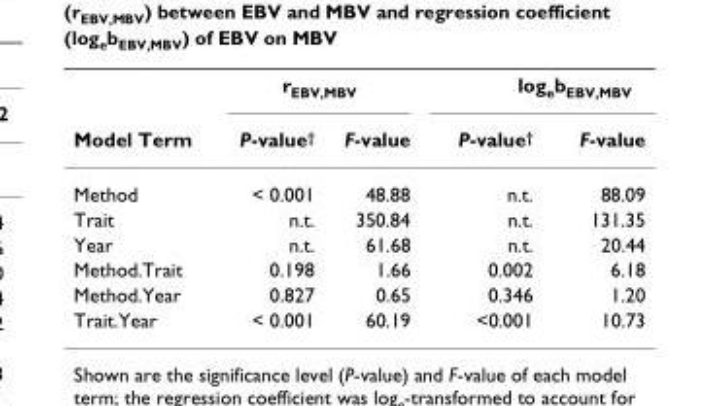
<table><thead><tr><td rowspan="2">Model Term</td><td colspan="2">r<sub>EBV,MBV</sub></td><td colspan="2">log<sub>e</sub>b<sub>EBV,MBV</sub></td></tr><tr><td>P-value<sup>†</sup></td><td>F-value</td><td>P-value<sup>†</sup></td><td>F-value</td></tr></thead><tbody><tr><td>Method</td><td>&lt; 0.001</td><td>48.88</td><td>n.t.</td><td>88.09</td></tr><tr><td>Trait</td><td>n.t.</td><td>350.84</td><td>n.t.</td><td>131.35</td></tr><tr><td>Year</td><td>n.t.</td><td>61.68</td><td>n.t.</td><td>20.44</td></tr><tr><td>Method.Trait</td><td>0.198</td><td>1.66</td><td>0.002</td><td>6.18</td></tr><tr><td>Method.Year</td><td>0.827</td><td>0.65</td><td>0.346</td><td>1.20</td></tr><tr><td>Trait.Year</td><td>&lt; 0.001</td><td>60.19</td><td>&lt;0.001</td><td>10.73</td></tr></tbody></table>